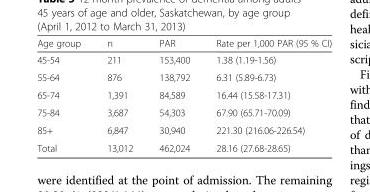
<table><thead><tr><td>Age group</td><td>n</td><td>PAR</td><td>Rate per 1,000 PAR (95 % CI)</td></tr></thead><tbody><tr><td>45-54</td><td>211</td><td>153,400</td><td>1.38 (1.19-1.56)</td></tr><tr><td>55-64</td><td>876</td><td>138,792</td><td>6.31 (5.89-6.73)</td></tr><tr><td>65-74</td><td>1,391</td><td>84,589</td><td>16.44 (15.58-17.31)</td></tr><tr><td>75-84</td><td>3,687</td><td>54,303</td><td>67.90 (65.71-70.09)</td></tr><tr><td>85+</td><td>6,847</td><td>30,940</td><td>221.30 (216.06-226.54)</td></tr><tr><td>Total</td><td>13,012</td><td>462,024</td><td>28.16 (27.68-28.65)</td></tr></tbody></table>